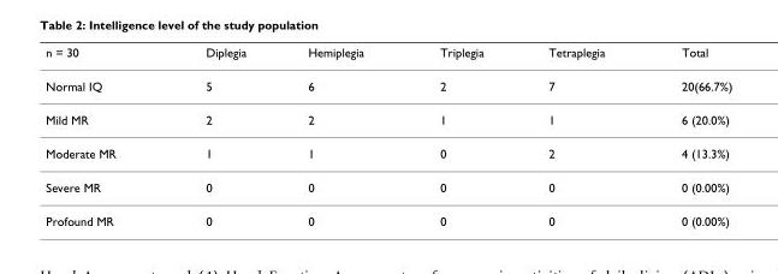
<table><thead><tr><td>n = 30</td><td>Diplegia</td><td>Hemiplegia</td><td>Triplegia</td><td>Tetraplegia</td><td>Total</td></tr></thead><tbody><tr><td>Normal IQ</td><td>5</td><td>6</td><td>2</td><td>7</td><td>20(66.7%)</td></tr><tr><td>Mild MR</td><td>2</td><td>2</td><td>1</td><td>1</td><td>6 (20.0%)</td></tr><tr><td>Moderate MR</td><td>1</td><td>1</td><td>0</td><td>2</td><td>4 (13.3%)</td></tr><tr><td>Severe MR</td><td>0</td><td>0</td><td>0</td><td>0</td><td>0 (0.00%)</td></tr><tr><td>Profound MR</td><td>0</td><td>0</td><td>0</td><td>0</td><td>0 (0.00%)</td></tr></tbody></table>